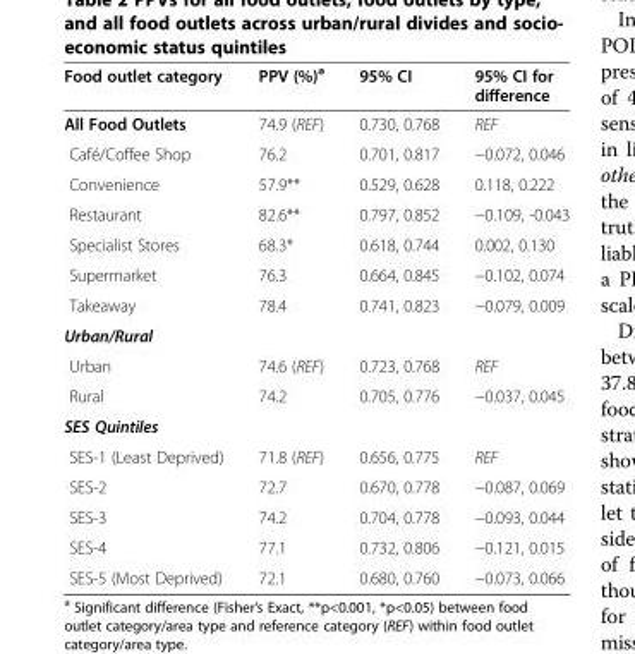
<table><thead><tr><td>Food outlet category</td><td>PPV (%)<sup>a</sup></td><td>95% CI</td><td>95% CI for difference</td></tr></thead><tbody><tr><td>All Food Outlets</td><td>74.9 (REF)</td><td>0.730, 0.768</td><td>REF</td></tr><tr><td>Café/Coffee Shop</td><td>76.2</td><td>0.701, 0.817</td><td>−0.072, 0.046</td></tr><tr><td>Convenience</td><td>57.9**</td><td>0.529, 0.628</td><td>0.118, 0.222</td></tr><tr><td>Restaurant</td><td>82.6**</td><td>0.797, 0.852</td><td>−0.109, -0.043</td></tr><tr><td>Specialist Stores</td><td>68.3*</td><td>0.618, 0.744</td><td>0.002, 0.130</td></tr><tr><td>Supermarket</td><td>76.3</td><td>0.664, 0.845</td><td>−0.102, 0.074</td></tr><tr><td>Takeaway</td><td>78.4</td><td>0.741, 0.823</td><td>−0.079, 0.009</td></tr><tr><td colspan="4">Urban/Rural</td></tr><tr><td>Urban</td><td>74.6 (REF)</td><td>0.723, 0.768</td><td>REF</td></tr><tr><td>Rural</td><td>74.2</td><td>0.705, 0.776</td><td>−0.037, 0.045</td></tr><tr><td colspan="4">SES Quintiles</td></tr><tr><td>SES-1 (Least Deprived)</td><td>71.8 (REF)</td><td>0.656, 0.775</td><td>REF</td></tr><tr><td>SES-2</td><td>72.7</td><td>0.670, 0.778</td><td>−0.087, 0.069</td></tr><tr><td>SES-3</td><td>74.2</td><td>0.704, 0.778</td><td>−0.093, 0.044</td></tr><tr><td>SES-4</td><td>77.1</td><td>0.732, 0.806</td><td>−0.121, 0.015</td></tr><tr><td>SES-5 (Most Deprived)</td><td>72.1</td><td>0.680, 0.760</td><td>−0.073, 0.066</td></tr></tbody></table>